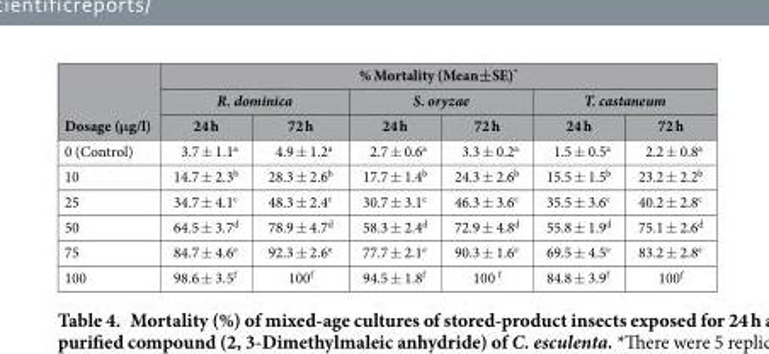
<table><thead><tr><td rowspan="3">Dosage (μg/l)</td><td colspan="6">% Mortality (Mean±SE)*</td></tr><tr><td colspan="2">R. dominica</td><td colspan="2">S. oryzae</td><td colspan="2">T. castaneum</td></tr><tr><td>24 h</td><td>72 h</td><td>24 h</td><td>72 h</td><td>24 h</td><td>72 h</td></tr></thead><tbody><tr><td>0 (Control)</td><td>3.7 ± 1.1<sup>a</sup></td><td>4.9 ± 1.2<sup>a</sup></td><td>2.7 ± 0.6<sup>a</sup></td><td>3.3 ± 0.2<sup>a</sup></td><td>1.5 ± 0.5<sup>a</sup></td><td>2.2 ± 0.8<sup>a</sup></td></tr><tr><td>10</td><td>14.7 ± 2.3<sup>b</sup></td><td>28.3 ± 2.6<sup>b</sup></td><td>17.7 ± 1.4<sup>b</sup></td><td>24.3 ± 2.6<sup>b</sup></td><td>15.5 ± 1.5<sup>b</sup></td><td>23.2 ± 2.2<sup>b</sup></td></tr><tr><td>25</td><td>34.7 ± 4.1<sup>c</sup></td><td>48.3 ± 2.4<sup>c</sup></td><td>30.7 ± 3.1<sup>c</sup></td><td>46.3 ± 3.6<sup>c</sup></td><td>35.5 ± 3.6<sup>c</sup></td><td>40.2 ± 2.8<sup>c</sup></td></tr><tr><td>50</td><td>64.5 ± 3.7<sup>d</sup></td><td>78.9 ± 4.7<sup>d</sup></td><td>58.3 ± 2.4<sup>d</sup></td><td>72.9 ± 4.8<sup>d</sup></td><td>55.8 ± 1.9<sup>d</sup></td><td>75.1 ± 2.6<sup>d</sup></td></tr><tr><td>75</td><td>84.7 ± 4.6<sup>e</sup></td><td>92.3 ± 2.6<sup>e</sup></td><td>77.7 ± 2.1<sup>e</sup></td><td>90.3 ± 1.6<sup>e</sup></td><td>69.5 ± 4.5<sup>e</sup></td><td>83.2 ± 2.8<sup>e</sup></td></tr><tr><td>100</td><td>98.6 ± 3.5<sup>f</sup></td><td>100<sup>f</sup></td><td>94.5 ± 1.8<sup>f</sup></td><td>100 <sup>f</sup></td><td>84.8 ± 3.9<sup>f</sup></td><td>100<sup>f</sup></td></tr></tbody></table>